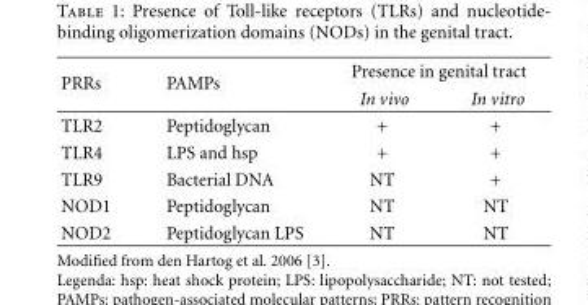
<table><thead><tr><td rowspan="2">PRRs</td><td rowspan="2">PAMPs</td><td colspan="2">Presence in genital tract</td></tr><tr><td>In vivo</td><td>In vitro</td></tr></thead><tbody><tr><td>TLR2</td><td>Peptidoglycan</td><td>+</td><td>+</td></tr><tr><td>TLR4</td><td>LPS and hsp</td><td>+</td><td>+</td></tr><tr><td>TLR9</td><td>Bacterial DNA</td><td>NT</td><td>+</td></tr><tr><td>NOD1</td><td>Peptidoglycan</td><td>NT</td><td>NT</td></tr><tr><td>NOD2</td><td>Peptidoglycan LPS</td><td>NT</td><td>NT</td></tr></tbody></table>